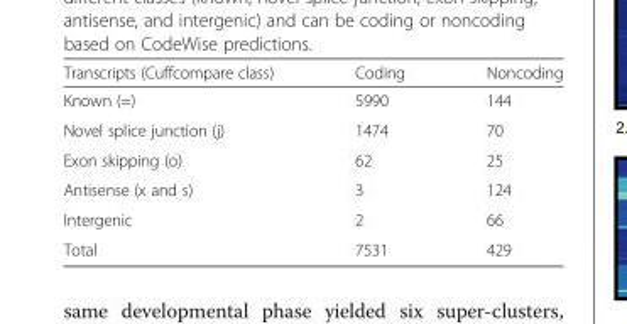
<table><thead><tr><td>Transcripts (Cuffcompare class)</td><td>Coding</td><td>Noncoding</td></tr></thead><tbody><tr><td>Known (=)</td><td>5990</td><td>144</td></tr><tr><td>Novel splice junction (j)</td><td>1474</td><td>70</td></tr><tr><td>Exon skipping (o)</td><td>62</td><td>25</td></tr><tr><td>Antisense (x and s)</td><td>3</td><td>124</td></tr><tr><td>Intergenic</td><td>2</td><td>66</td></tr><tr><td>Total</td><td>7531</td><td>429</td></tr></tbody></table>